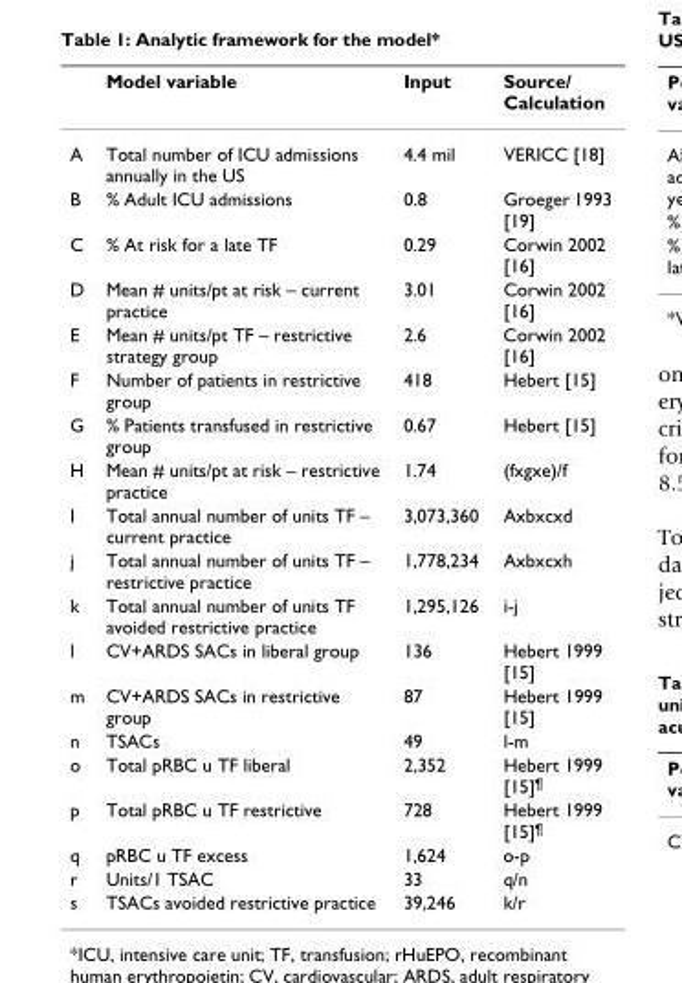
<table><thead><tr><td></td><td>Model variable</td><td>Input</td><td>Source/ Calculation</td></tr></thead><tbody><tr><td>A</td><td>Total number of ICU admissions annually in the US</td><td>4.4 mil</td><td>VERICC [18]</td></tr><tr><td>B</td><td>% Adult ICU admissions</td><td>0.8</td><td>Groeger 1993 [19]</td></tr><tr><td>C</td><td>% At risk for a late TF</td><td>0.29</td><td>Corwin 2002 [16]</td></tr><tr><td>D</td><td>Mean # units/pt at risk – current practice</td><td>3.01</td><td>Corwin 2002 [16]</td></tr><tr><td>E</td><td>Mean # units/pt TF – restrictive strategy group</td><td>2.6</td><td>Corwin 2002 [16]</td></tr><tr><td>F</td><td>Number of patients in restrictive group</td><td>418</td><td>Hebert [15]</td></tr><tr><td>G</td><td>% Patients transfused in restrictive group</td><td>0.67</td><td>Hebert [15]</td></tr><tr><td>H</td><td>Mean # units/pt at risk – restrictive practice</td><td>1.74</td><td>(fxgxe)/f</td></tr><tr><td>I</td><td>Total annual number of units TF – current practice</td><td>3,073,360</td><td>Axbxcxd</td></tr><tr><td>j</td><td>Total annual number of units TF – restrictive practice</td><td>1,778,234</td><td>Axbxcxh</td></tr><tr><td>k</td><td>Total annual number of units TF avoided restrictive practice</td><td>1,295,126</td><td>i-j</td></tr><tr><td>l</td><td>CV+ARDS SACs in liberal group</td><td>136</td><td>Hebert 1999 [15]</td></tr><tr><td>m</td><td>CV+ARDS SACs in restrictive group</td><td>87</td><td>Hebert 1999 [15]</td></tr><tr><td>n</td><td>TSACs</td><td>49</td><td>l-m</td></tr><tr><td>o</td><td>Total pRBC u TF liberal</td><td>2,352</td><td>Hebert 1999 [15]<sup>¶</sup></td></tr><tr><td>p</td><td>Total pRBC u TF restrictive</td><td>728</td><td>Hebert 1999 [15]<sup>¶</sup></td></tr><tr><td>q</td><td>pRBC u TF excess</td><td>1,624</td><td>o-p</td></tr><tr><td>r</td><td>Units/1 TSAC</td><td>33</td><td>q/n</td></tr><tr><td>s</td><td>TSACs avoided restrictive practice</td><td>39,246</td><td>k/r</td></tr></tbody></table>